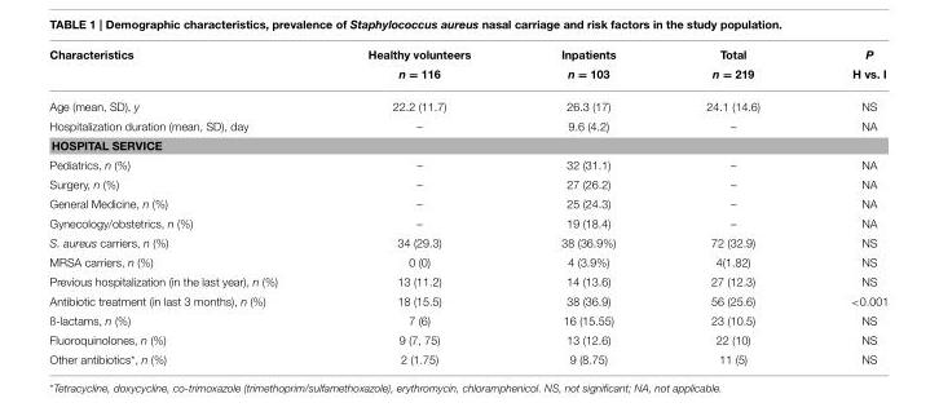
<table><thead><tr><td>Characteristics</td><td>Healthy volunteers n = 116</td><td>Inpatients n = 103</td><td>Total n = 219</td><td>P H vs. I</td></tr></thead><tbody><tr><td>Age (mean, SD), y</td><td>22.2 (11.7)</td><td>26.3 (17)</td><td>24.1 (14.6)</td><td>NS</td></tr><tr><td>Hospitalization duration (mean, SD), day</td><td>–</td><td>9.6 (4.2)</td><td>–</td><td>NA</td></tr><tr><td colspan="5">HOSPITAL SERVICE</td></tr><tr><td>Pediatrics, n (%)</td><td>–</td><td>32 (31.1)</td><td>–</td><td>NA</td></tr><tr><td>Surgery, n (%)</td><td>–</td><td>27 (26.2)</td><td>–</td><td>NA</td></tr><tr><td>General Medicine, n (%)</td><td>–</td><td>25 (24.3)</td><td>–</td><td>NA</td></tr><tr><td>Gynecology/obstetrics, n (%)</td><td>–</td><td>19 (18.4)</td><td>–</td><td>NA</td></tr><tr><td>S. aureus carriers, n (%)</td><td>34 (29.3)</td><td>38 (36.9%)</td><td>72 (32.9)</td><td>NS</td></tr><tr><td>MRSA carriers, n (%)</td><td>0 (0)</td><td>4 (3.9%)</td><td>4(1.82)</td><td>NS</td></tr><tr><td>Previous hospitalization (in the last year), n (%)</td><td>13 (11.2)</td><td>14 (13.6)</td><td>27 (12.3)</td><td>NS</td></tr><tr><td>Antibiotic treatment (in last 3 months), n (%)</td><td>18 (15.5)</td><td>38 (36.9)</td><td>56 (25.6)</td><td>&lt;0.001</td></tr><tr><td>ß-lactams, n (%)</td><td>7 (6)</td><td>16 (15.55)</td><td>23 (10.5)</td><td>NS</td></tr><tr><td>Fluoroquinolones, n (%)</td><td>9 (7, 75)</td><td>13 (12.6)</td><td>22 (10)</td><td>NS</td></tr><tr><td>Other antibiotics*, n (%)</td><td>2 (1.75)</td><td>9 (8.75)</td><td>11 (5)</td><td>NS</td></tr></tbody></table>